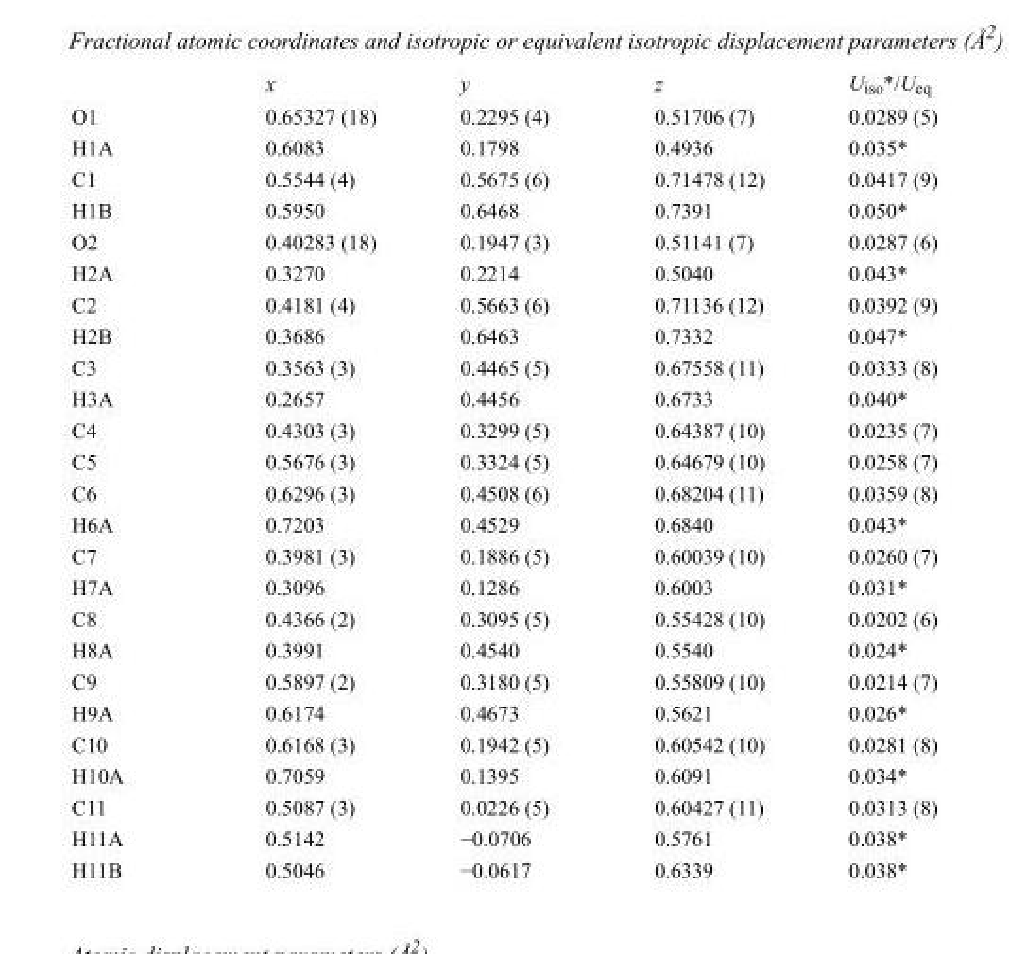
<table><thead><tr><td></td><td>x</td><td>y</td><td>z</td><td>U<sub>iso</sub>*/U<sub>eq</sub></td></tr></thead><tbody><tr><td>O1</td><td>0.65327 (18)</td><td>0.2295 (4)</td><td>0.51706 (7)</td><td>0.0289 (5)</td></tr><tr><td>H1A</td><td>0.6083</td><td>0.1798</td><td>0.4936</td><td>0.035*</td></tr><tr><td>C1</td><td>0.5544 (4)</td><td>0.5675 (6)</td><td>0.71478 (12)</td><td>0.0417 (9)</td></tr><tr><td>H1B</td><td>0.5950</td><td>0.6468</td><td>0.7391</td><td>0.050*</td></tr><tr><td>O2</td><td>0.40283 (18)</td><td>0.1947 (3)</td><td>0.51141 (7)</td><td>0.0287 (6)</td></tr><tr><td>H2A</td><td>0.3270</td><td>0.2214</td><td>0.5040</td><td>0.043*</td></tr><tr><td>C2</td><td>0.4181 (4)</td><td>0.5663 (6)</td><td>0.71136 (12)</td><td>0.0392 (9)</td></tr><tr><td>H2B</td><td>0.3686</td><td>0.6463</td><td>0.7332</td><td>0.047*</td></tr><tr><td>C3</td><td>0.3563 (3)</td><td>0.4465 (5)</td><td>0.67558 (11)</td><td>0.0333 (8)</td></tr><tr><td>H3A</td><td>0.2657</td><td>0.4456</td><td>0.6733</td><td>0.040*</td></tr><tr><td>C4</td><td>0.4303 (3)</td><td>0.3299 (5)</td><td>0.64387 (10)</td><td>0.0235 (7)</td></tr><tr><td>C5</td><td>0.5676 (3)</td><td>0.3324 (5)</td><td>0.64679 (10)</td><td>0.0258 (7)</td></tr><tr><td>C6</td><td>0.6296 (3)</td><td>0.4508 (6)</td><td>0.68204 (11)</td><td>0.0359 (8)</td></tr><tr><td>H6A</td><td>0.7203</td><td>0.4529</td><td>0.6840</td><td>0.043*</td></tr><tr><td>C7</td><td>0.3981 (3)</td><td>0.1886 (5)</td><td>0.60039 (10)</td><td>0.0260 (7)</td></tr><tr><td>H7A</td><td>0.3096</td><td>0.1286</td><td>0.6003</td><td>0.031*</td></tr><tr><td>C8</td><td>0.4366 (2)</td><td>0.3095 (5)</td><td>0.55428 (10)</td><td>0.0202 (6)</td></tr><tr><td>H8A</td><td>0.3991</td><td>0.4540</td><td>0.5540</td><td>0.024*</td></tr><tr><td>C9</td><td>0.5897 (2)</td><td>0.3180 (5)</td><td>0.55809 (10)</td><td>0.0214 (7)</td></tr><tr><td>H9A</td><td>0.6174</td><td>0.4673</td><td>0.5621</td><td>0.026*</td></tr><tr><td>C10</td><td>0.6168 (3)</td><td>0.1942 (5)</td><td>0.60542 (10)</td><td>0.0281 (8)</td></tr><tr><td>H10A</td><td>0.7059</td><td>0.1395</td><td>0.6091</td><td>0.034*</td></tr><tr><td>C11</td><td>0.5087 (3)</td><td>0.0226 (5)</td><td>0.60427 (11)</td><td>0.0313 (8)</td></tr><tr><td>H11A</td><td>0.5142</td><td>−0.0706</td><td>0.5761</td><td>0.038*</td></tr><tr><td>H11B</td><td>0.5046</td><td>−0.0617</td><td>0.6339</td><td>0.038*</td></tr></tbody></table>